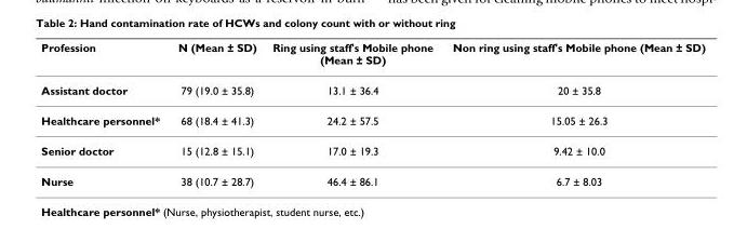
<table><thead><tr><td>Profession</td><td>N (Mean ± SD)</td><td>Ring using staff&#x27;s Mobile phone (Mean ± SD)</td><td>Non ring using staff&#x27;s Mobile phone (Mean ± SD)</td></tr></thead><tbody><tr><td>Assistant doctor</td><td>79 (19.0 ± 35.8)</td><td>13.1 ± 36.4</td><td>20 ± 35.8</td></tr><tr><td>Healthcare personnel*</td><td>68 (18.4 ± 41.3)</td><td>24.2 ± 57.5</td><td>15.05 ± 26.3</td></tr><tr><td>Senior doctor</td><td>15 (12.8 ± 15.1)</td><td>17.0 ± 19.3</td><td>9.42 ± 10.0</td></tr><tr><td>Nurse</td><td>38 (10.7 ± 28.7)</td><td>46.4 ± 86.1</td><td>6.7 ± 8.03</td></tr></tbody></table>